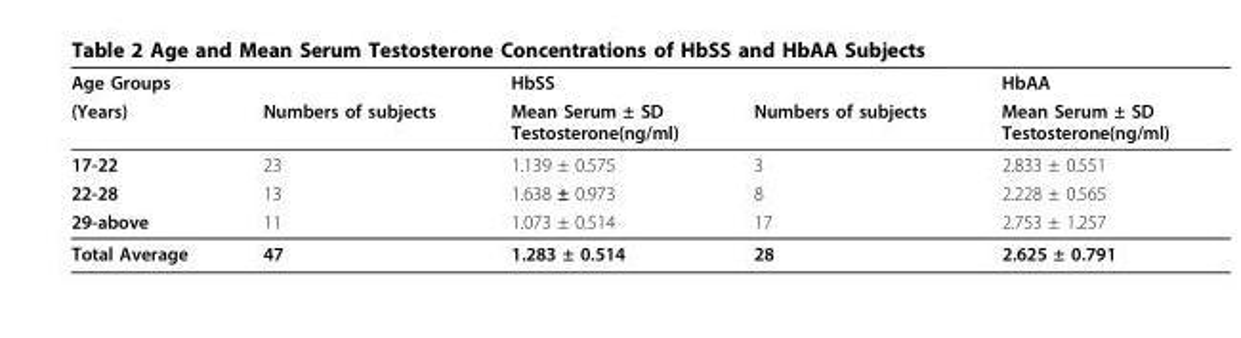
<table><thead><tr><td colspan="2">Age Groups</td><td rowspan="2">HbSS Mean Serum ± SD Testosterone(ng/ml)</td><td rowspan="2">Numbers of subjects</td><td rowspan="2">HbAA Mean Serum ± SD Testosterone(ng/ml)</td></tr><tr><td>(Years)</td><td>Numbers of subjects</td></tr></thead><tbody><tr><td>17-22</td><td>23</td><td>1.139 ± 0.575</td><td>3</td><td>2.833 ± 0.551</td></tr><tr><td>22-28</td><td>13</td><td>1.638 ± 0.973</td><td>8</td><td>2.228 ± 0.565</td></tr><tr><td>29-above</td><td>11</td><td>1.073 ± 0.514</td><td>17</td><td>2.753 ± 1.257</td></tr><tr><td>Total Average</td><td>47</td><td>1.283 ± 0.514</td><td>28</td><td>2.625 ± 0.791</td></tr></tbody></table>